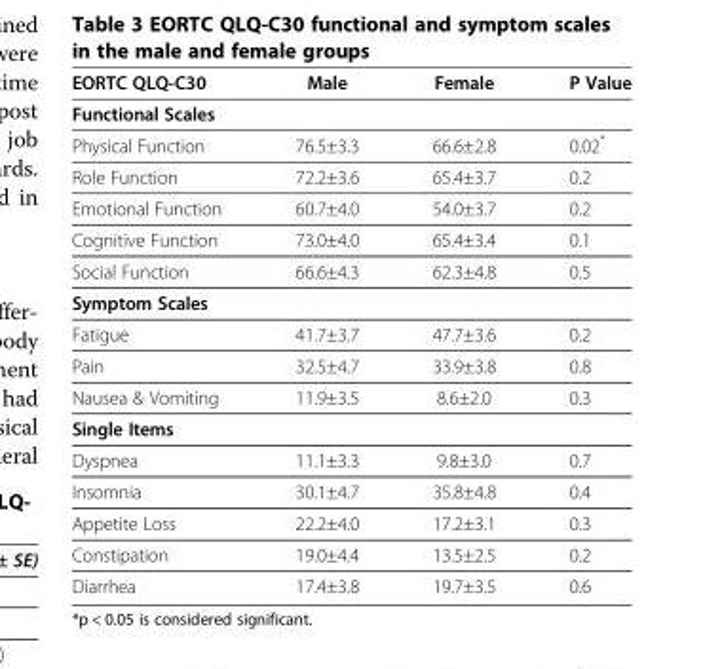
<table><thead><tr><td>EORTC QLQ-C30</td><td>Male</td><td>Female</td><td>P Value</td></tr></thead><tbody><tr><td colspan="4">Functional Scales</td></tr><tr><td>Physical Function</td><td>76.5±3.3</td><td>66.6±2.8</td><td>0.02*</td></tr><tr><td>Role Function</td><td>72.2±3.6</td><td>65.4±3.7</td><td>0.2</td></tr><tr><td>Emotional Function</td><td>60.7±4.0</td><td>54.0±3.7</td><td>0.2</td></tr><tr><td>Cognitive Function</td><td>73.0±4.0</td><td>65.4±3.4</td><td>0.1</td></tr><tr><td>Social Function</td><td>66.6±4.3</td><td>62.3±4.8</td><td>0.5</td></tr><tr><td colspan="4">Symptom Scales</td></tr><tr><td>Fatigue</td><td>41.7±3.7</td><td>47.7±3.6</td><td>0.2</td></tr><tr><td>Pain</td><td>32.5±4.7</td><td>33.9±3.8</td><td>0.8</td></tr><tr><td>Nausea &amp; Vomiting</td><td>11.9±3.5</td><td>8.6±2.0</td><td>0.3</td></tr><tr><td colspan="4">Single Items</td></tr><tr><td>Dyspnea</td><td>11.1±3.3</td><td>9.8±3.0</td><td>0.7</td></tr><tr><td>Insomnia</td><td>30.1±4.7</td><td>35.8±4.8</td><td>0.4</td></tr><tr><td>Appetite Loss</td><td>22.2±4.0</td><td>17.2±3.1</td><td>0.3</td></tr><tr><td>Constipation</td><td>19.0±4.4</td><td>13.5±2.5</td><td>0.2</td></tr><tr><td>Diarrhea</td><td>17.4±3.8</td><td>19.7±3.5</td><td>0.6</td></tr></tbody></table>